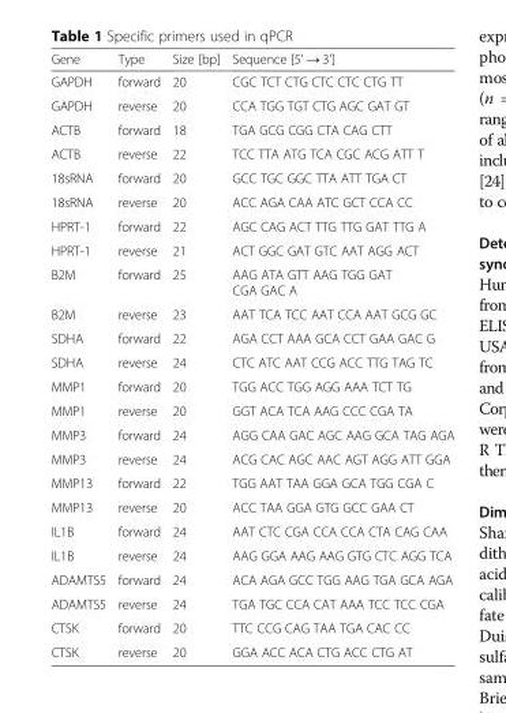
<table><thead><tr><td>Gene</td><td>Type</td><td>Size [bp]</td><td>Sequence [5&#x27; → 3&#x27;]</td></tr></thead><tbody><tr><td>GAPDH</td><td>forward</td><td>20</td><td>CGC TCT CTG CTC CTC CTG TT</td></tr><tr><td>GAPDH</td><td>reverse</td><td>20</td><td>CCA TGG TGT CTG AGC GAT GT</td></tr><tr><td>ACTB</td><td>forward</td><td>18</td><td>TGA GCG CGG CTA CAG CTT</td></tr><tr><td>ACTB</td><td>reverse</td><td>22</td><td>TCC TTA ATG TCA CGC ACG ATT T</td></tr><tr><td>18sRNA</td><td>forward</td><td>20</td><td>GCC TGC GGC TTA ATT TGA CT</td></tr><tr><td>18sRNA</td><td>reverse</td><td>20</td><td>ACC AGA CAA ATC GCT CCA CC</td></tr><tr><td>HPRT-1</td><td>forward</td><td>22</td><td>AGC CAG ACT TTG TTG GAT TTG A</td></tr><tr><td>HPRT-1</td><td>reverse</td><td>21</td><td>ACT GGC GAT GTC AAT AGG ACT</td></tr><tr><td>B2M</td><td>forward</td><td>25</td><td>AAG ATA GTT AAG TGG GAT CGA GAC A</td></tr><tr><td>B2M</td><td>reverse</td><td>23</td><td>AAT TCA TCC AAT CCA AAT GCG GC</td></tr><tr><td>SDHA</td><td>forward</td><td>22</td><td>AGA CCT AAA GCA CCT GAA GAC G</td></tr><tr><td>SDHA</td><td>reverse</td><td>24</td><td>CTC ATC AAT CCG ACC TTG TAG TC</td></tr><tr><td>MMP1</td><td>forward</td><td>20</td><td>TGG ACC TGG AGG AAA TCT TG</td></tr><tr><td>MMP1</td><td>reverse</td><td>20</td><td>GGT ACA TCA AAG CCC CGA TA</td></tr><tr><td>MMP3</td><td>forward</td><td>24</td><td>AGG CAA GAC AGC AAG GCA TAG AGA</td></tr><tr><td>MMP3</td><td>reverse</td><td>24</td><td>ACG CAC AGC AAC AGT AGG ATT GGA</td></tr><tr><td>MMP13</td><td>forward</td><td>22</td><td>TGG AAT TAA GGA GCA TGG CGA C</td></tr><tr><td>MMP13</td><td>reverse</td><td>20</td><td>ACC TAA GGA GTG GCC GAA CT</td></tr><tr><td>IL1B</td><td>forward</td><td>24</td><td>AAT CTC CGA CCA CCA CTA CAG CAA</td></tr><tr><td>IL1B</td><td>reverse</td><td>24</td><td>AAG GGA AAG AAG GTG CTC AGG TCA</td></tr><tr><td>ADAMTS5</td><td>forward</td><td>24</td><td>ACA AGA GCC TGG AAG TGA GCA AGA</td></tr><tr><td>ADAMTS5</td><td>reverse</td><td>24</td><td>TGA TGC CCA CAT AAA TCC TCC CGA</td></tr><tr><td>CTSK</td><td>forward</td><td>20</td><td>TTC CCG CAG TAA TGA CAC CC</td></tr><tr><td>CTSK</td><td>reverse</td><td>20</td><td>GGA ACC ACA CTG ACC CTG AT</td></tr></tbody></table>